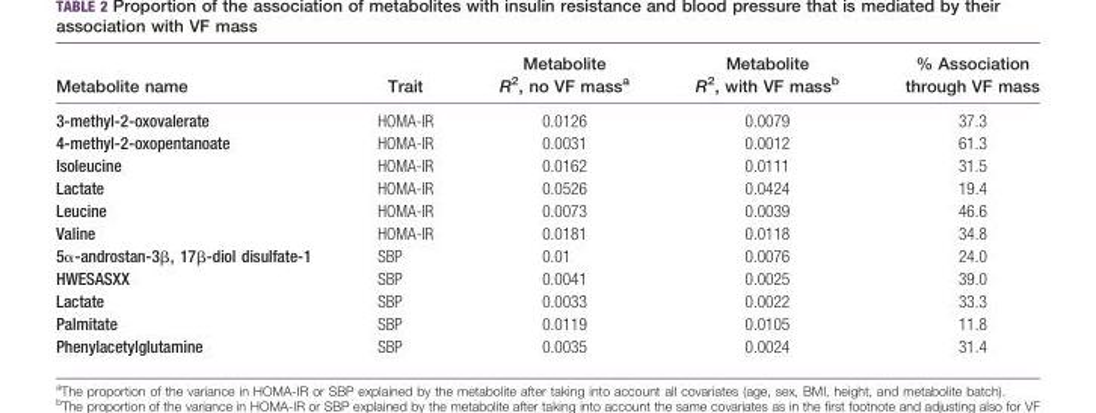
<table><thead><tr><td>Metabolite name</td><td>Trait</td><td>Metabolite R<sup>2</sup>, no VF mass<sup>a</sup></td><td>Metabolite R<sup>2</sup>, with VF mass<sup>b</sup></td><td>% Association through VF mass</td></tr></thead><tbody><tr><td>3-methyl-2-oxovalerate</td><td>HOMA-IR</td><td>0.0126</td><td>0.0079</td><td>37.3</td></tr><tr><td>4-methyl-2-oxopentanoate</td><td>HOMA-IR</td><td>0.0031</td><td>0.0012</td><td>61.3</td></tr><tr><td>Isoleucine</td><td>HOMA-IR</td><td>0.0162</td><td>0.0111</td><td>31.5</td></tr><tr><td>Lactate</td><td>HOMA-IR</td><td>0.0526</td><td>0.0424</td><td>19.4</td></tr><tr><td>Leucine</td><td>HOMA-IR</td><td>0.0073</td><td>0.0039</td><td>46.6</td></tr><tr><td>Valine</td><td>HOMA-IR</td><td>0.0181</td><td>0.0118</td><td>34.8</td></tr><tr><td>5α-androstan-3β, 17β-diol disulfate-1</td><td>SBP</td><td>0.01</td><td>0.0076</td><td>24.0</td></tr><tr><td>HWESASXX</td><td>SBP</td><td>0.0041</td><td>0.0025</td><td>39.0</td></tr><tr><td>Lactate</td><td>SBP</td><td>0.0033</td><td>0.0022</td><td>33.3</td></tr><tr><td>Palmitate</td><td>SBP</td><td>0.0119</td><td>0.0105</td><td>11.8</td></tr><tr><td>Phenylacetylglutamine</td><td>SBP</td><td>0.0035</td><td>0.0024</td><td>31.4</td></tr></tbody></table>